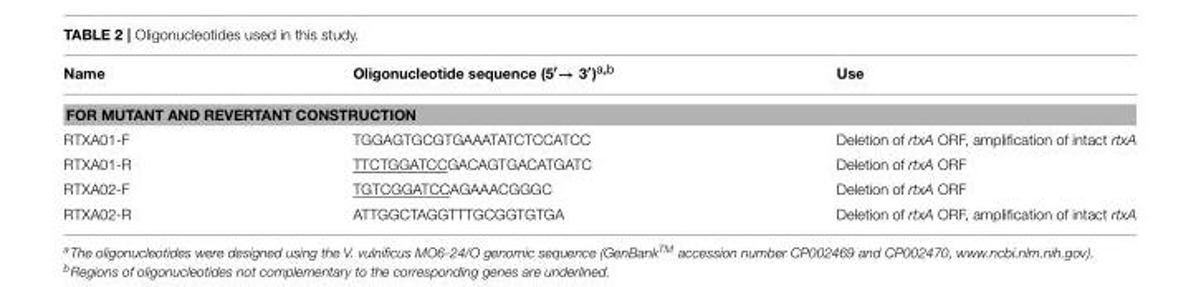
<table><thead><tr><td>Name</td><td>Oligonucleotide sequence (5′→ 3′)<sup>a,b</sup></td><td>Use</td></tr></thead><tbody><tr><td colspan="3">FOR MUTANT AND REVERTANT CONSTRUCTION</td></tr><tr><td>RTXA01-F</td><td>TGGAGTGCGTGAAATATCTCCATCC</td><td>Deletion of rtxA ORF, amplification of intact rtxA</td></tr><tr><td>RTXA01-R</td><td>TTCTGGATCCGACAGTGACATGATC</td><td>Deletion of rtxA ORF</td></tr><tr><td>RTXA02-F</td><td>TGTCGGATCCAGAAACGGGC</td><td>Deletion of rtxA ORF</td></tr><tr><td>RTXA02-R</td><td>ATTGGCTAGGTTTGCGGTGTGA</td><td>Deletion of rtxA ORF, amplification of intact rtxA</td></tr></tbody></table>